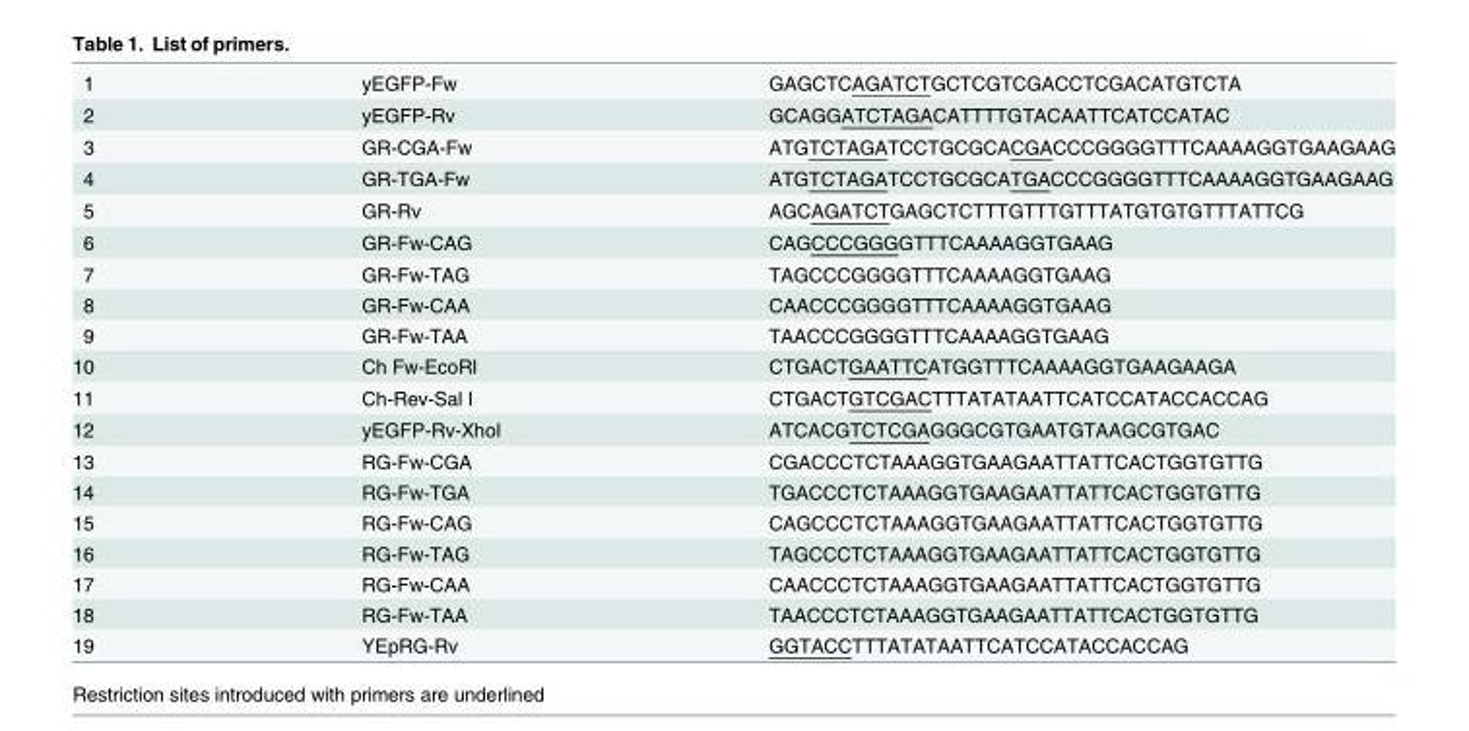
<table><tbody><tr><td>1</td><td>yEGFP-Fw</td><td>GAGCTCAGATCTGCTCGTCGACCTCGACATGTCTA</td></tr><tr><td>2</td><td>yEGFP-Rv</td><td>GCAGGATCTAGACATTTTGTACAATTCATCCATAC</td></tr><tr><td>3</td><td>GR-CGA-Fw</td><td>ATGTCTAGATCCTGCGCACGACCCGGGGTTTCAAAAGGTGAAGAAG</td></tr><tr><td>4</td><td>GR-TGA-Fw</td><td>ATGTCTAGATCCTGCGCATGACCCGGGGTTTCAAAAGGTGAAGAAG</td></tr><tr><td>5</td><td>GR-Rv</td><td>AGCAGATCTGAGCTCTTTGTTTGTTTATGTGTGTTTATTCG</td></tr><tr><td>6</td><td>GR-Fw-CAG</td><td>CAGCCCGGGGTTTCAAAAGGTGAAG</td></tr><tr><td>7</td><td>GR-Fw-TAG</td><td>TAGCCCGGGGTTTCAAAAGGTGAAG</td></tr><tr><td>8</td><td>GR-Fw-CAA</td><td>CAACCCGGGGTTTCAAAAGGTGAAG</td></tr><tr><td>9</td><td>GR-Fw-TAA</td><td>TAACCCGGGGTTTCAAAAGGTGAAG</td></tr><tr><td>10</td><td>Ch Fw-EcoRI</td><td>CTGACTGAATTCATGGTTTCAAAAGGTGAAGAAGA</td></tr><tr><td>11</td><td>Ch-Rev-Sal I</td><td>CTGACTGTCGACTTTATATAATTCATCCATACCACCAG</td></tr><tr><td>12</td><td>yEGFP-Rv-XhoI</td><td>ATCACGTCTCGAGGGCGTGAATGTAAGCGTGAC</td></tr><tr><td>13</td><td>RG-Fw-CGA</td><td>CGACCCTCTAAAGGTGAAGAATTATTCACTGGTGTTG</td></tr><tr><td>14</td><td>RG-Fw-TGA</td><td>TGACCCTCTAAAGGTGAAGAATTATTCACTGGTGTTG</td></tr><tr><td>15</td><td>RG-Fw-CAG</td><td>CAGCCCTCTAAAGGTGAAGAATTATTCACTGGTGTTG</td></tr><tr><td>16</td><td>RG-Fw-TAG</td><td>TAGCCCTCTAAAGGTGAAGAATTATTCACTGGTGTTG</td></tr><tr><td>17</td><td>RG-Fw-CAA</td><td>CAACCCTCTAAAGGTGAAGAATTATTCACTGGTGTTG</td></tr><tr><td>18</td><td>RG-Fw-TAA</td><td>TAACCCTCTAAAGGTGAAGAATTATTCACTGGTGTTG</td></tr><tr><td>19</td><td>YEpRG-Rv</td><td>GGTACCTTTATATAATTCATCCATACCACCAG</td></tr></tbody></table>